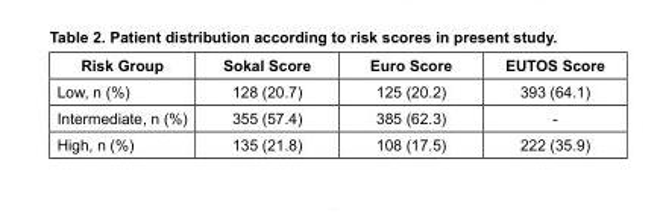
<table><thead><tr><td>Risk Group</td><td>Sokal Score</td><td>Euro Score</td><td>EutoS Score</td></tr></thead><tbody><tr><td>Low, n (%)</td><td>128 (20.7)</td><td>125 (20.2)</td><td>393 (64.1)</td></tr><tr><td>Intermediate, n (%)</td><td>355 (57.4)</td><td>385 (62.3)</td><td>-</td></tr><tr><td>High, n (%)</td><td>135 (21.8)</td><td>108 (17.5)</td><td>222 (35.9)</td></tr></tbody></table>